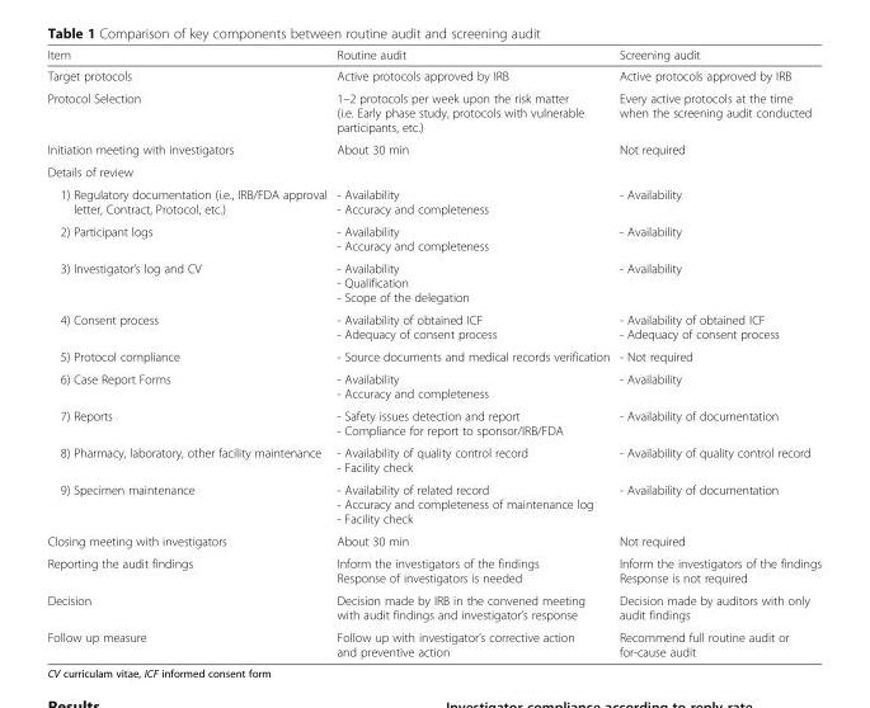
<table><thead><tr><td>Item</td><td>Routine audit</td><td>Screening audit</td></tr></thead><tbody><tr><td>Target protocols</td><td>Active protocols approved by IRB</td><td>Active protocols approved by IRB</td></tr><tr><td>Protocol Selection</td><td>1–2 protocols per week upon the risk matter (i.e. Early phase study, protocols with vulnerable participants, etc.)</td><td>Every active protocols at the time when the screening audit conducted</td></tr><tr><td>Initiation meeting with investigators</td><td>About 30 min</td><td>Not required</td></tr><tr><td colspan="3">Details of review</td></tr><tr><td>1) Regulatory documentation (i.e., IRB/FDA approval letter, Contract, Protocol, etc.)</td><td>- Availability - Accuracy and completeness</td><td>- Availability</td></tr><tr><td>2) Participant logs</td><td>- Availability - Accuracy and completeness</td><td>- Availability</td></tr><tr><td>3) Investigator’s log and CV</td><td>- Availability - Qualification - Scope of the delegation</td><td>- Availability</td></tr><tr><td>4) Consent process</td><td>- Availability of obtained ICF - Adequacy of consent process</td><td>- Availability of obtained ICF - Adequacy of consent process</td></tr><tr><td>5) Protocol compliance</td><td>- Source documents and medical records verification</td><td>- Not required</td></tr><tr><td>6) Case Report Forms</td><td>- Availability - Accuracy and completeness</td><td>- Availability</td></tr><tr><td>7) Reports</td><td>- Safety issues detection and report - Compliance for report to sponsor/IRB/FDA</td><td>- Availability of documentation</td></tr><tr><td>8) Pharmacy, laboratory, other facility maintenance</td><td>- Availability of quality control record - Facility check</td><td>- Availability of quality control record</td></tr><tr><td>9) Specimen maintenance</td><td>- Availability of related record - Accuracy and completeness of maintenance log - Facility check</td><td>- Availability of documentation</td></tr><tr><td>Closing meeting with investigators</td><td>About 30 min</td><td>Not required</td></tr><tr><td>Reporting the audit findings</td><td>Inform the investigators of the findings Response of investigators is needed</td><td>Inform the investigators of the findings Response is not required</td></tr><tr><td>Decision</td><td>Decision made by IRB in the convened meeting with audit findings and investigator’s response</td><td>Decision made by auditors with only audit findings</td></tr><tr><td>Follow up measure</td><td>Follow up with investigator’s corrective action and preventive action</td><td>Recommend full routine audit or for-cause audit</td></tr></tbody></table>